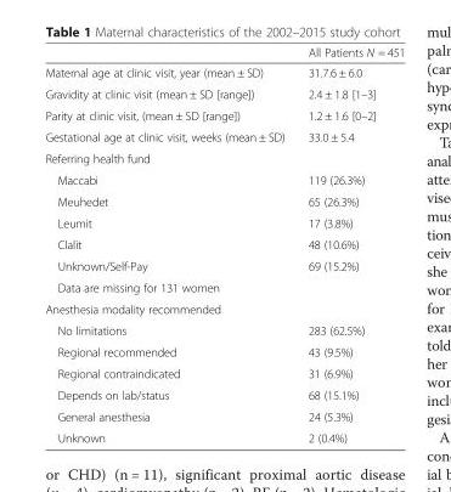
<table><thead><tr><td></td><td>All Patients N = 451</td></tr></thead><tbody><tr><td>Maternal age at clinic visit, year (mean ± SD)</td><td>31.7.6 ± 6.0</td></tr><tr><td>Gravidity at clinic visit (mean ± SD [range])</td><td>2.4 ± 1.8 [1–3]</td></tr><tr><td>Parity at clinic visit, (mean ± SD [range])</td><td>1.2 ± 1.6 [0–2]</td></tr><tr><td>Gestational age at clinic visit, weeks (mean ± SD)</td><td>33.0 ± 5.4</td></tr><tr><td colspan="2">Referring health fund</td></tr><tr><td>Maccabi</td><td>119 (26.3%)</td></tr><tr><td>Meuhedet</td><td>65 (26.3%)</td></tr><tr><td>Leumit</td><td>17 (3.8%)</td></tr><tr><td>Clalit</td><td>48 (10.6%)</td></tr><tr><td>Unknown/Self-Pay</td><td>69 (15.2%)</td></tr><tr><td colspan="2">Data are missing for 131 women</td></tr><tr><td colspan="2">Anesthesia modality recommended</td></tr><tr><td>No limitations</td><td>283 (62.5%)</td></tr><tr><td>Regional recommended</td><td>43 (9.5%)</td></tr><tr><td>Regional contraindicated</td><td>31 (6.9%)</td></tr><tr><td>Depends on lab/status</td><td>68 (15.1%)</td></tr><tr><td>General anesthesia</td><td>24 (5.3%)</td></tr><tr><td>Unknown</td><td>2 (0.4%)</td></tr></tbody></table>